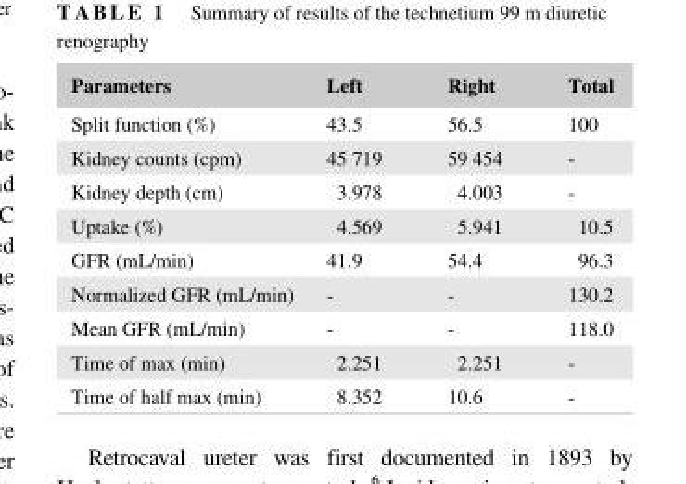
<table><thead><tr><td>Parameters</td><td>Left</td><td>Right</td><td>Total</td></tr></thead><tbody><tr><td>Split function (%)</td><td>43.5</td><td>56.5</td><td>100</td></tr><tr><td>Kidney counts (cpm)</td><td>45 719</td><td>59 454</td><td>-</td></tr><tr><td>Kidney depth (cm)</td><td>3.978</td><td>4.003</td><td>-</td></tr><tr><td>Uptake (%)</td><td>4.569</td><td>5.941</td><td>10.5</td></tr><tr><td>GFR (mL/min)</td><td>41.9</td><td>54.4</td><td>96.3</td></tr><tr><td>Normalized GFR (mL/min)</td><td>-</td><td>-</td><td>130.2</td></tr><tr><td>Mean GFR (mL/min)</td><td>-</td><td>-</td><td>118.0</td></tr><tr><td>Time of max (min)</td><td>2.251</td><td>2.251</td><td>-</td></tr><tr><td>Time of half max (min)</td><td>8.352</td><td>10.6</td><td>-</td></tr></tbody></table>